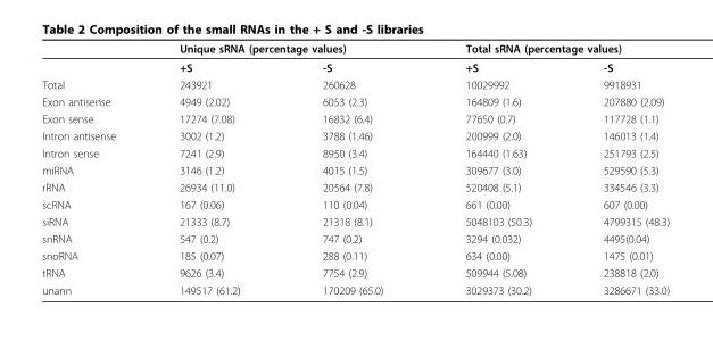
<table><thead><tr><td rowspan="2"></td><td colspan="2">Unique sRNA (percentage values)</td><td colspan="2">Total sRNA (percentage values)</td></tr><tr><td>+S</td><td>-S</td><td>+S</td><td>-S</td></tr></thead><tbody><tr><td>Total</td><td>243921</td><td>260628</td><td>10029992</td><td>9918931</td></tr><tr><td>Exon antisense</td><td>4949 (2.02)</td><td>6053 (2.3)</td><td>164809 (1.6)</td><td>207880 (2.09)</td></tr><tr><td>Exon sense</td><td>17274 (7.08)</td><td>16832 (6.4)</td><td>77650 (0.7)</td><td>117728 (1.1)</td></tr><tr><td>Intron antisense</td><td>3002 (1.2)</td><td>3788 (1.46)</td><td>200999 (2.0)</td><td>146013 (1.4)</td></tr><tr><td>Intron sense</td><td>7241 (2.9)</td><td>8950 (3.4)</td><td>164440 (1.63)</td><td>251793 (2.5)</td></tr><tr><td>miRNA</td><td>3146 (1.2)</td><td>4015 (1.5)</td><td>309677 (3.0)</td><td>529590 (5.3)</td></tr><tr><td>rRNA</td><td>26934 (11.0)</td><td>20564 (7.8)</td><td>520408 (5.1)</td><td>334546 (3.3)</td></tr><tr><td>scRNA</td><td>167 (0.06)</td><td>110 (0.04)</td><td>661 (0.00)</td><td>607 (0.00)</td></tr><tr><td>siRNA</td><td>21333 (8.7)</td><td>21318 (8.1)</td><td>5048103 (50.3)</td><td>4799315 (48.3)</td></tr><tr><td>snRNA</td><td>547 (0.2)</td><td>747 (0.2)</td><td>3294 (0.032)</td><td>4495(0.04)</td></tr><tr><td>snoRNA</td><td>185 (0.07)</td><td>288 (0.11)</td><td>634 (0.00)</td><td>1475 (0.01)</td></tr><tr><td>tRNA</td><td>9626 (3.4)</td><td>7754 (2.9)</td><td>509944 (5.08)</td><td>238818 (2.0)</td></tr><tr><td>unann</td><td>149517 (61.2)</td><td>170209 (65.0)</td><td>3029373 (30.2)</td><td>3286671 (33.0)</td></tr></tbody></table>